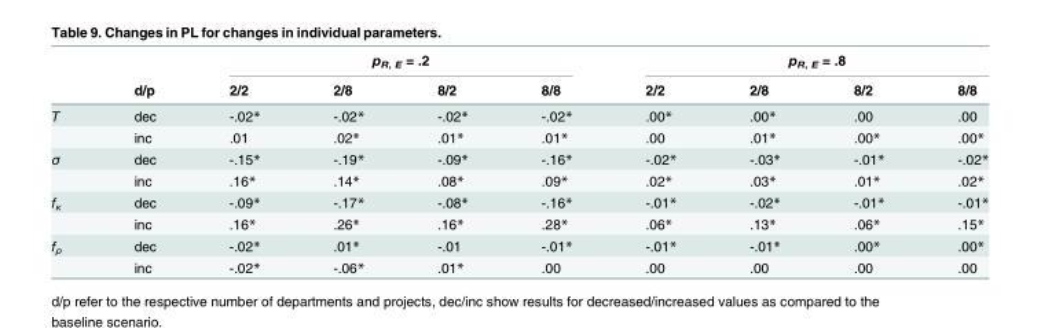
<table><thead><tr><td rowspan="2"></td><td rowspan="2">d/p</td><td colspan="4">p<sub>R, E</sub> = .2</td><td colspan="4">p<sub>R, E</sub> = .8</td></tr><tr><td>2/2</td><td>2/8</td><td>8/2</td><td>8/8</td><td>2/2</td><td>2/8</td><td>8/2</td><td>8/8</td></tr></thead><tbody><tr><td rowspan="2">T</td><td>dec</td><td>-.02*</td><td>-.02*</td><td>-.02*</td><td>-.02*</td><td>.00*</td><td>.00*</td><td>.00</td><td>.00</td></tr><tr><td>inc</td><td>.01</td><td>.02*</td><td>.01*</td><td>.01*</td><td>.00</td><td>.01*</td><td>.00*</td><td>.00*</td></tr><tr><td rowspan="2">σ</td><td>dec</td><td>-.15*</td><td>-.19*</td><td>-.09*</td><td>-.16*</td><td>-.02*</td><td>-.03*</td><td>-.01*</td><td>-.02*</td></tr><tr><td>inc</td><td>.16*</td><td>.14*</td><td>.08*</td><td>.09*</td><td>.02*</td><td>.03*</td><td>.01*</td><td>.02*</td></tr><tr><td rowspan="2">f<sub>κ</sub></td><td>dec</td><td>-.09*</td><td>-.17*</td><td>-.08*</td><td>-.16*</td><td>-.01*</td><td>-.02*</td><td>-.01*</td><td>-.01*</td></tr><tr><td>inc</td><td>.16*</td><td>.26*</td><td>.16*</td><td>.28*</td><td>.06*</td><td>.13*</td><td>.06*</td><td>.15*</td></tr><tr><td rowspan="2">f<sub>ρ</sub></td><td>dec</td><td>-.02*</td><td>.01*</td><td>-.01</td><td>-.01*</td><td>-.01*</td><td>-.01*</td><td>.00*</td><td>.00*</td></tr><tr><td>inc</td><td>-.02*</td><td>-.06*</td><td>.01*</td><td>.00</td><td>.00</td><td>.00</td><td>.00</td><td>.00</td></tr></tbody></table>